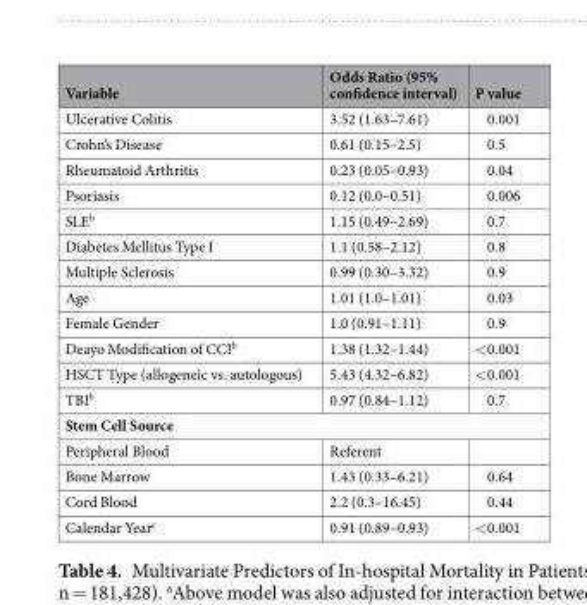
<table><thead><tr><td>Variable</td><td>Odds Ratio (95% confidence interval)</td><td>P value</td></tr></thead><tbody><tr><td>Ulcerative Colitis</td><td>3.52 (1.63–7.61)</td><td>0.001</td></tr><tr><td>Crohn’s Disease</td><td>0.61 (0.15–2.5)</td><td>0.5</td></tr><tr><td>Rheumatoid Arthritis</td><td>0.23 (0.05–0.93)</td><td>0.04</td></tr><tr><td>Psoriasis</td><td>0.12 (0.0–0.51)</td><td>0.006</td></tr><tr><td>SLE<sup>b</sup></td><td>1.15 (0.49–2.69)</td><td>0.7</td></tr><tr><td>Diabetes Mellitus Type I</td><td>1.1 (0.58–2.12)</td><td>0.8</td></tr><tr><td>Multiple Sclerosis</td><td>0.99 (0.30–3.32)</td><td>0.9</td></tr><tr><td>Age</td><td>1.01 (1.0–1.01)</td><td>0.03</td></tr><tr><td>Female Gender</td><td>1.0 (0.91–1.11)</td><td>0.9</td></tr><tr><td>Deayo Modification of CCI<sup>b</sup></td><td>1.38 (1.32–1.44)</td><td>&lt;0.001</td></tr><tr><td>HSCT Type (allogeneic vs. autologous)</td><td>5.43 (4.32–6.82)</td><td>&lt;0.001</td></tr><tr><td>TBI<sup>b</sup></td><td>0.97 (0.84–1.12)</td><td>0.7</td></tr><tr><td colspan="3">Stem Cell Source</td></tr><tr><td>Peripheral Blood</td><td>Referent</td><td></td></tr><tr><td>Bone Marrow</td><td>1.43 (0.33–6.21)</td><td>0.64</td></tr><tr><td>Cord Blood</td><td>2.2 (0.3–16.45)</td><td>0.44</td></tr><tr><td>Calendar Year<sup>c</sup></td><td>0.91 (0.89–0.93)</td><td>&lt;0.001</td></tr></tbody></table>